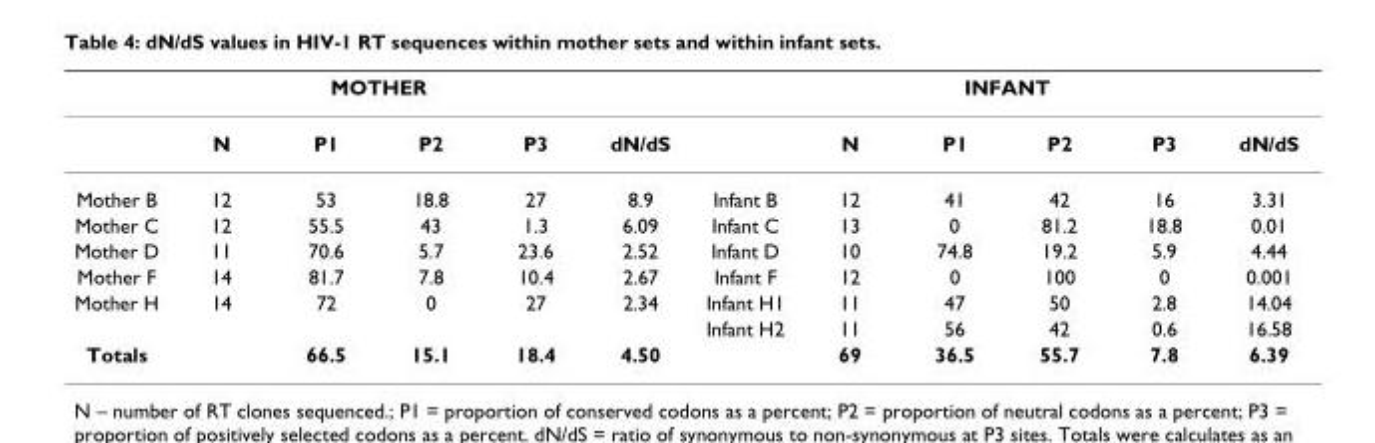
<table><thead><tr><td colspan="6">MOTHER</td><td colspan="6">INFANT</td></tr><tr><td></td><td>N</td><td>P1</td><td>P2</td><td>P3</td><td>dN/dS</td><td></td><td>N</td><td>P1</td><td>P2</td><td>P3</td><td>dN/dS</td></tr></thead><tbody><tr><td>Mother B</td><td>12</td><td>53</td><td>18.8</td><td>27</td><td>8.9</td><td>Infant B</td><td>12</td><td>41</td><td>42</td><td>16</td><td>3.31</td></tr><tr><td>Mother C</td><td>12</td><td>55.5</td><td>43</td><td>1.3</td><td>6.09</td><td>Infant C</td><td>13</td><td>0</td><td>81.2</td><td>18.8</td><td>0.01</td></tr><tr><td>Mother D</td><td>11</td><td>70.6</td><td>5.7</td><td>23.6</td><td>2.52</td><td>Infant D</td><td>10</td><td>74.8</td><td>19.2</td><td>5.9</td><td>4.44</td></tr><tr><td>Mother F</td><td>14</td><td>81.7</td><td>7.8</td><td>10.4</td><td>2.67</td><td>Infant F</td><td>12</td><td>0</td><td>100</td><td>0</td><td>0.001</td></tr><tr><td rowspan="2">Mother H</td><td>14</td><td>72</td><td>0</td><td>27</td><td>2.34</td><td>Infant H1</td><td>11</td><td>47</td><td>50</td><td>2.8</td><td>14.04</td></tr><tr><td></td><td></td><td></td><td></td><td></td><td>Infant H2</td><td>11</td><td>56</td><td>42</td><td>0.6</td><td>16.58</td></tr><tr><td>Totals</td><td></td><td>66.5</td><td>15.1</td><td>18.4</td><td>4.50</td><td></td><td>69</td><td>36.5</td><td>55.7</td><td>7.8</td><td>6.39</td></tr></tbody></table>